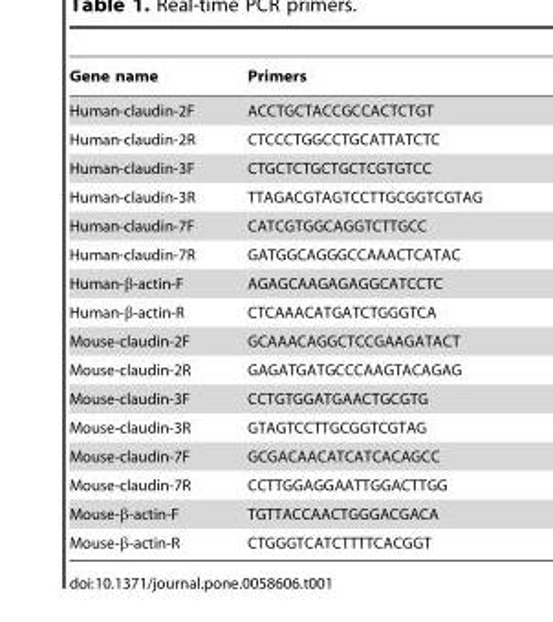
<table><thead><tr><td>Gene name</td><td>Primers</td></tr></thead><tbody><tr><td>Human-claudin-2F</td><td>ACCTGCTACCGCCACTCTGT</td></tr><tr><td>Human-claudin-2R</td><td>CTCCCTGGCCTGCATTATCTC</td></tr><tr><td>Human-claudin-3F</td><td>CTGCTCTGCTGCTCGTGTCC</td></tr><tr><td>Human-claudin-3R</td><td>TTAGACGTAGTCCTTGCGGTCGTAG</td></tr><tr><td>Human-claudin-7F</td><td>CATCGTGGCAGGTCTTGCC</td></tr><tr><td>Human-claudin-7R</td><td>GATGGCAGGGCCAAACTCATAC</td></tr><tr><td>Human-β-actin-F</td><td>AGAGCAAGAGAGGCATCCTC</td></tr><tr><td>Human-β-actin-R</td><td>CTCAAACATGATCTGGGTCA</td></tr><tr><td>Mouse-claudin-2F</td><td>GCAAACAGGCTCCGAAGATACT</td></tr><tr><td>Mouse-claudin-2R</td><td>GAGATGATGCCCAAGTACAGAG</td></tr><tr><td>Mouse-claudin-3F</td><td>CCTGTGGATGAACTGCGTG</td></tr><tr><td>Mouse-claudin-3R</td><td>GTAGTCCTTGCGGTCGTAG</td></tr><tr><td>Mouse-claudin-7F</td><td>GCGACAACATCATCACAGCC</td></tr><tr><td>Mouse-claudin-7R</td><td>CCTTGGAGGAATTGGACTTGG</td></tr><tr><td>Mouse-β-actin-F</td><td>TGTTACCAACTGGGACGACA</td></tr><tr><td>Mouse-β-actin-R</td><td>CTGGGTCATCTTTTCACGGT</td></tr></tbody></table>